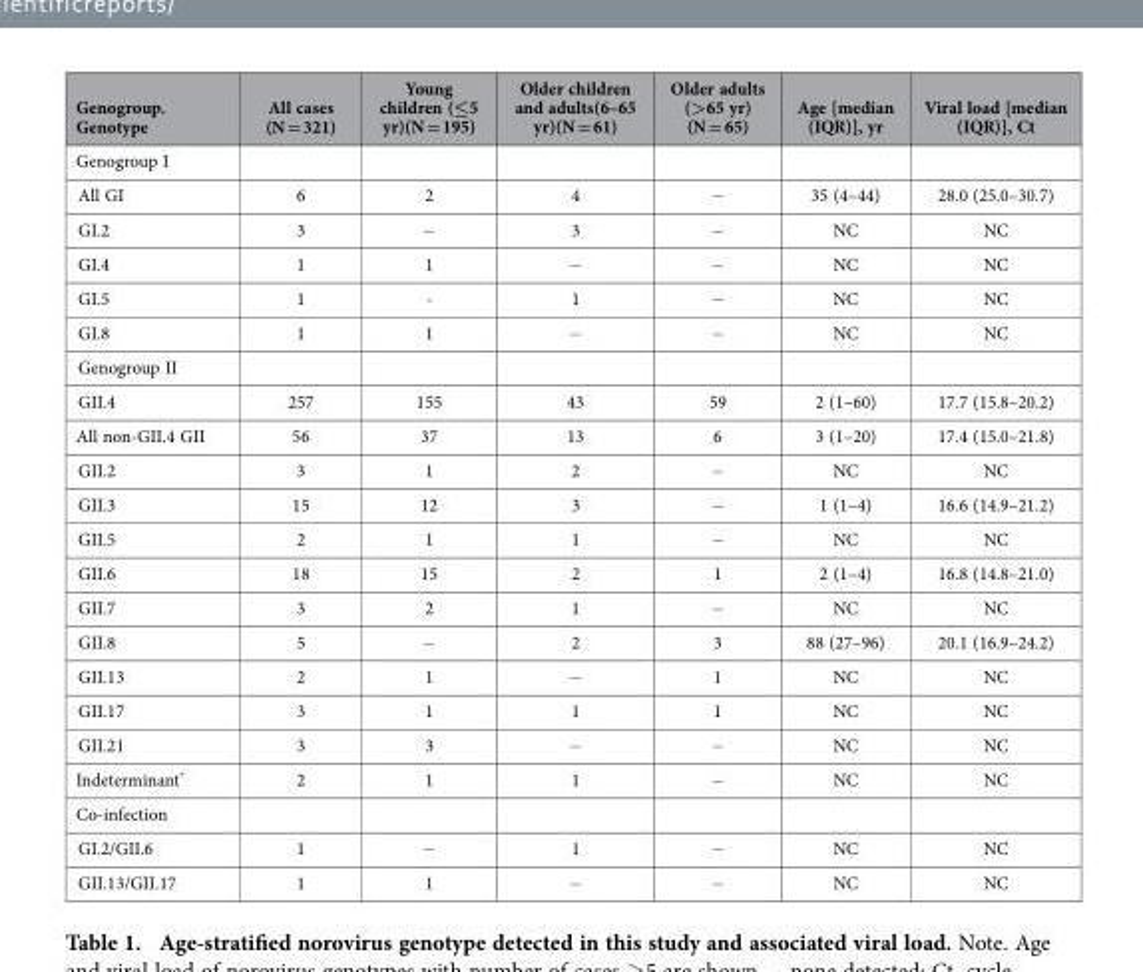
<table><thead><tr><td>Genogroup. Genotype</td><td>All cases (N = 321)</td><td>Young children (≤5 yr)(N = 195)</td><td>Older children and adults(6–65 yr)(N = 61)</td><td>Older adults (&gt;65 yr) (N = 65)</td><td>Age [median (IQR)], yr</td><td>Viral load [median (IQR)], Ct</td></tr></thead><tbody><tr><td colspan="7">Genogroup I</td></tr><tr><td>All GI</td><td>6</td><td>2</td><td>4</td><td>−</td><td>35 (4–44)</td><td>28.0 (25.0–30.7)</td></tr><tr><td>GI.2</td><td>3</td><td>−</td><td>3</td><td>−</td><td>NC</td><td>NC</td></tr><tr><td>GI.4</td><td>1</td><td>1</td><td>−</td><td>−</td><td>NC</td><td>NC</td></tr><tr><td>GI.5</td><td>1</td><td>-</td><td>1</td><td>−</td><td>NC</td><td>NC</td></tr><tr><td>GI.8</td><td>1</td><td>1</td><td>−</td><td>−</td><td>NC</td><td>NC</td></tr><tr><td colspan="7">Genogroup II</td></tr><tr><td>GII.4</td><td>257</td><td>155</td><td>43</td><td>59</td><td>2 (1–60)</td><td>17.7 (15.8–20.2)</td></tr><tr><td>All non-GII.4 GII</td><td>56</td><td>37</td><td>13</td><td>6</td><td>3 (1–20)</td><td>17.4 (15.0–21.8)</td></tr><tr><td>GII.2</td><td>3</td><td>1</td><td>2</td><td>−</td><td>NC</td><td>NC</td></tr><tr><td>GII.3</td><td>15</td><td>12</td><td>3</td><td>−</td><td>1 (1–4)</td><td>16.6 (14.9–21.2)</td></tr><tr><td>GII.5</td><td>2</td><td>1</td><td>1</td><td>−</td><td>NC</td><td>NC</td></tr><tr><td>GII.6</td><td>18</td><td>15</td><td>2</td><td>1</td><td>2 (1–4)</td><td>16.8 (14.8–21.0)</td></tr><tr><td>GII.7</td><td>3</td><td>2</td><td>1</td><td>−</td><td>NC</td><td>NC</td></tr><tr><td>GII.8</td><td>5</td><td>−</td><td>2</td><td>3</td><td>88 (27–96)</td><td>20.1 (16.9–24.2)</td></tr><tr><td>GII.13</td><td>2</td><td>1</td><td>−</td><td>1</td><td>NC</td><td>NC</td></tr><tr><td>GII.17</td><td>3</td><td>1</td><td>1</td><td>1</td><td>NC</td><td>NC</td></tr><tr><td>GII.21</td><td>3</td><td>3</td><td>−</td><td>−</td><td>NC</td><td>NC</td></tr><tr><td>Indeterminant*</td><td>2</td><td>1</td><td>1</td><td>−</td><td>NC</td><td>NC</td></tr><tr><td colspan="7">Co-infection</td></tr><tr><td>GI.2/GII.6</td><td>1</td><td>−</td><td>1</td><td>−</td><td>NC</td><td>NC</td></tr><tr><td>GII.13/GII.17</td><td>1</td><td>1</td><td>−</td><td>−</td><td>NC</td><td>NC</td></tr></tbody></table>